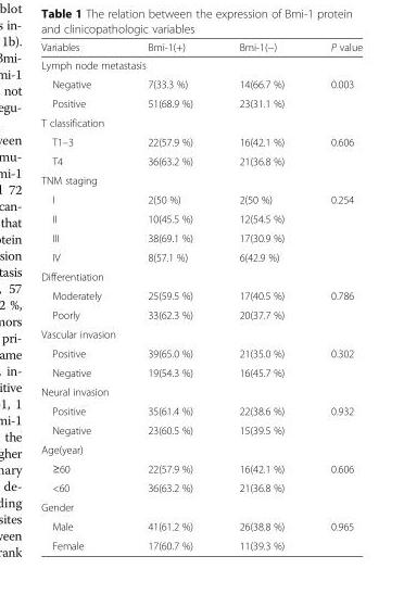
<table><thead><tr><td>Variables</td><td>Bmi-1(+)</td><td>Bmi-1(−)</td><td>P value</td></tr></thead><tbody><tr><td colspan="4">Lymph node metastasis</td></tr><tr><td>Negative</td><td>7(33.3 %)</td><td>14(66.7 %)</td><td>0.003</td></tr><tr><td>Positive</td><td>51(68.9 %)</td><td>23(31.1 %)</td><td></td></tr><tr><td colspan="4">T classification</td></tr><tr><td>T1–3</td><td>22(57.9 %)</td><td>16(42.1 %)</td><td>0.606</td></tr><tr><td>T4</td><td>36(63.2 %)</td><td>21(36.8 %)</td><td></td></tr><tr><td colspan="4">TNM staging</td></tr><tr><td>I</td><td>2(50 %)</td><td>2(50 %)</td><td>0.254</td></tr><tr><td>II</td><td>10(45.5 %)</td><td>12(54.5 %)</td><td></td></tr><tr><td>III</td><td>38(69.1 %)</td><td>17(30.9 %)</td><td></td></tr><tr><td>IV</td><td>8(57.1 %)</td><td>6(42.9 %)</td><td></td></tr><tr><td colspan="4">Differentiation</td></tr><tr><td>Moderately</td><td>25(59.5 %)</td><td>17(40.5 %)</td><td>0.786</td></tr><tr><td>Poorly</td><td>33(62.3 %)</td><td>20(37.7 %)</td><td></td></tr><tr><td colspan="4">Vascular invasion</td></tr><tr><td>Positive</td><td>39(65.0 %)</td><td>21(35.0 %)</td><td>0.302</td></tr><tr><td>Negative</td><td>19(54.3 %)</td><td>16(45.7 %)</td><td></td></tr><tr><td colspan="4">Neural invasion</td></tr><tr><td>Positive</td><td>35(61.4 %)</td><td>22(38.6 %)</td><td>0.932</td></tr><tr><td>Negative</td><td>23(60.5 %)</td><td>15(39.5 %)</td><td></td></tr><tr><td colspan="4">Age(year)</td></tr><tr><td>≥60</td><td>22(57.9 %)</td><td>16(42.1 %)</td><td>0.606</td></tr><tr><td>&lt;60</td><td>36(63.2 %)</td><td>21(36.8 %)</td><td></td></tr><tr><td colspan="4">Gender</td></tr><tr><td>Male</td><td>41(61.2 %)</td><td>26(38.8 %)</td><td>0.965</td></tr><tr><td>Female</td><td>17(60.7 %)</td><td>11(39.3 %)</td><td></td></tr></tbody></table>